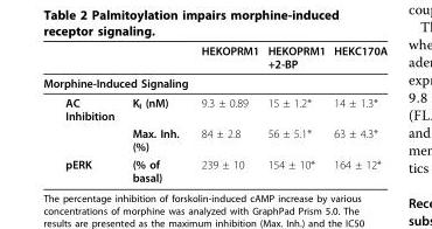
<table><thead><tr><td></td><td></td><td>HEKOPRM1</td><td>HEKOPRM1 +2-BP</td><td>HEKC170A</td></tr></thead><tbody><tr><td colspan="5">Morphine-Induced Signaling</td></tr><tr><td rowspan="2">AC Inhibition</td><td>K<sub>I</sub> (nM)</td><td>9.3 ± 0.89</td><td>15 ± 1.2*</td><td>14 ± 1.3*</td></tr><tr><td>Max. Inh. (%)</td><td>84 ± 2.8</td><td>56 ± 5.1*</td><td>63 ± 4.3*</td></tr><tr><td>pERK</td><td>(% of basal)</td><td>239 ± 10</td><td>154 ± 10*</td><td>164 ± 12*</td></tr></tbody></table>